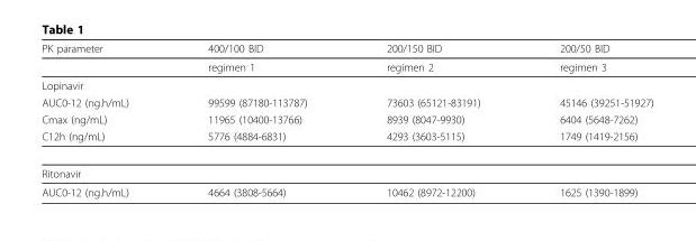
<table><thead><tr><td>PK parameter</td><td>400/100 BID</td><td>200/150 BID</td><td>200/50 BID</td></tr></thead><tbody><tr><td></td><td>regimen 1</td><td>regimen 2</td><td>regimen 3</td></tr><tr><td colspan="4">Lopinavir</td></tr><tr><td>AUC0-12 (ng.h/mL)</td><td>99599 (87180-113787)</td><td>73603 (65121-83191)</td><td>45146 (39251-51927)</td></tr><tr><td>Cmax (ng/mL)</td><td>11965 (10400-13766)</td><td>8939 (8047-9930)</td><td>6404 (5648-7262)</td></tr><tr><td>C12h (ng/mL)</td><td>5776 (4884-6831)</td><td>4293 (3603-5115)</td><td>1749 (1419-2156)</td></tr><tr><td colspan="4">Ritonavir</td></tr><tr><td>AUC0-12 (ng.h/mL)</td><td>4664 (3808-5664)</td><td>10462 (8972-12200)</td><td>1625 (1390-1899)</td></tr></tbody></table>